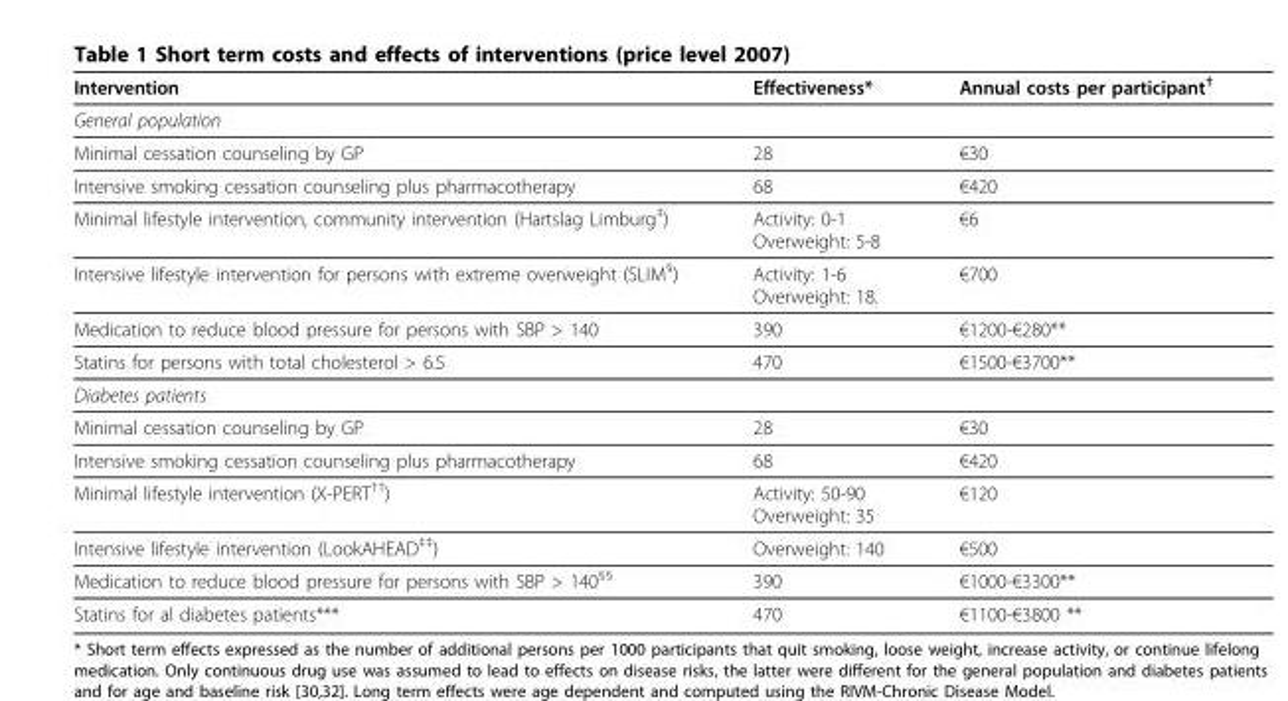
<table><thead><tr><td>Intervention</td><td>Effectiveness*</td><td>Annual costs per participant<sup>†</sup></td></tr></thead><tbody><tr><td colspan="3">General population</td></tr><tr><td>Minimal cessation counseling by GP</td><td>28</td><td>€30</td></tr><tr><td>Intensive smoking cessation counseling plus pharmacotherapy</td><td>68</td><td>€420</td></tr><tr><td>Minimal lifestyle intervention, community intervention (Hartslag Limburg<sup>‡</sup>)</td><td>Activity: 0-1 Overweight: 5-8</td><td>€6</td></tr><tr><td>Intensive lifestyle intervention for persons with extreme overweight (SLIM<sup>§</sup>)</td><td>Activity: 1-6 Overweight: 18.</td><td>€700</td></tr><tr><td>Medication to reduce blood pressure for persons with SBP &gt; 140</td><td>390</td><td>€1200-€280**</td></tr><tr><td>Statins for persons with total cholesterol &gt; 6.5</td><td>470</td><td>€1500-€3700**</td></tr><tr><td colspan="3">Diabetes patients</td></tr><tr><td>Minimal cessation counseling by GP</td><td>28</td><td>€30</td></tr><tr><td>Intensive smoking cessation counseling plus pharmacotherapy</td><td>68</td><td>€420</td></tr><tr><td>Minimal lifestyle intervention (X-PERT<sup>††</sup>)</td><td>Activity: 50-90 Overweight: 35</td><td>€120</td></tr><tr><td>Intensive lifestyle intervention (LookAHEAD<sup>‡‡</sup>)</td><td>Overweight: 140</td><td>€500</td></tr><tr><td>Medication to reduce blood pressure for persons with SBP &gt; 140<sup>§§</sup></td><td>390</td><td>€1000-€3300**</td></tr><tr><td>Statins for al diabetes patients***</td><td>470</td><td>€1100-€3800 **</td></tr></tbody></table>